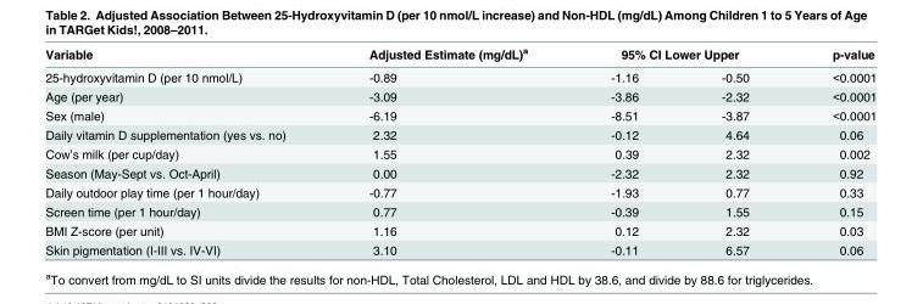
<table><thead><tr><td rowspan="2">Variable 25-hydroxyvitamin D (per 10 nmol/L)</td><td rowspan="2">Adjusted Estimate (mg/dL)<sup>a</sup> -0.89</td><td colspan="2">95% CI Lower Upper</td><td rowspan="2">p-value &lt;0.0001</td></tr><tr><td>-1.16</td><td>-0.50</td></tr></thead><tbody><tr><td>Age (per year)</td><td>-3.09</td><td>-3.86</td><td>-2.32</td><td>&lt;0.0001</td></tr><tr><td>Sex (male)</td><td>-6.19</td><td>-8.51</td><td>-3.87</td><td>&lt;0.0001</td></tr><tr><td>Daily vitamin D supplementation (yes vs. no)</td><td>2.32</td><td>-0.12</td><td>4.64</td><td>0.06</td></tr><tr><td>Cow’s milk (per cup/day)</td><td>1.55</td><td>0.39</td><td>2.32</td><td>0.002</td></tr><tr><td>Season (May-Sept vs. Oct-April)</td><td>0.00</td><td>-2.32</td><td>2.32</td><td>0.92</td></tr><tr><td>Daily outdoor play time (per 1 hour/day)</td><td>-0.77</td><td>-1.93</td><td>0.77</td><td>0.33</td></tr><tr><td>Screen time (per 1 hour/day)</td><td>0.77</td><td>-0.39</td><td>1.55</td><td>0.15</td></tr><tr><td>BMI Z-score (per unit)</td><td>1.16</td><td>0.12</td><td>2.32</td><td>0.03</td></tr><tr><td>Skin pigmentation (I-III vs. IV-VI)</td><td>3.10</td><td>-0.11</td><td>6.57</td><td>0.06</td></tr></tbody></table>